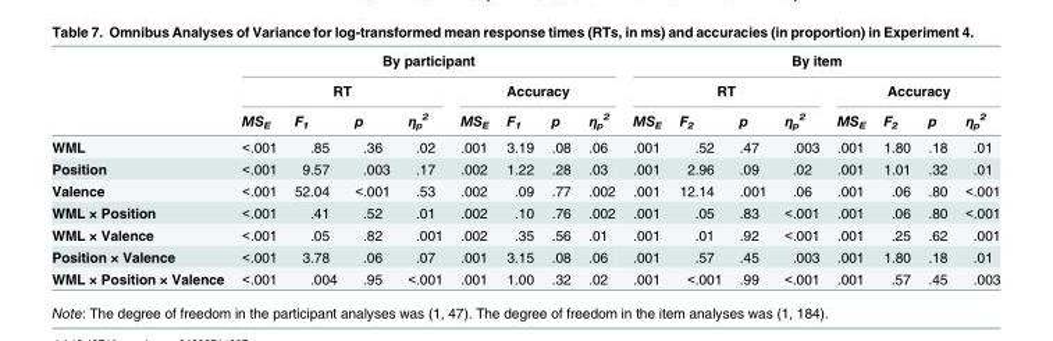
<table><thead><tr><td rowspan="3"></td><td colspan="8">By participant</td><td colspan="8">By item</td></tr><tr><td colspan="4">RT</td><td colspan="4">Accuracy</td><td colspan="4">RT</td><td colspan="4">Accuracy</td></tr><tr><td>MS<sub>E</sub></td><td>F<sub>1</sub></td><td>p</td><td>η<sub>p</sub> <sup>2</sup></td><td>MS<sub>E</sub></td><td>F<sub>1</sub></td><td>p</td><td>η<sub>p</sub> <sup>2</sup></td><td>MS<sub>E</sub></td><td>F<sub>2</sub></td><td>p</td><td>η<sub>p</sub> <sup>2</sup></td><td>MS<sub>E</sub></td><td>F<sub>2</sub></td><td>p</td><td>η<sub>p</sub> <sup>2</sup></td></tr></thead><tbody><tr><td>WML</td><td>&lt;.001</td><td>.85</td><td>.36</td><td>.02</td><td>.001</td><td>3.19</td><td>.08</td><td>.06</td><td>.001</td><td>.52</td><td>.47</td><td>.003</td><td>.001</td><td>1.80</td><td>.18</td><td>.01</td></tr><tr><td>Position</td><td>&lt;.001</td><td>9.57</td><td>.003</td><td>.17</td><td>.002</td><td>1.22</td><td>.28</td><td>.03</td><td>.001</td><td>2.96</td><td>.09</td><td>.02</td><td>.001</td><td>1.01</td><td>.32</td><td>.01</td></tr><tr><td>Valence</td><td>&lt;.001</td><td>52.04</td><td>&lt;.001</td><td>.53</td><td>.002</td><td>.09</td><td>.77</td><td>.002</td><td>.001</td><td>12.14</td><td>.001</td><td>.06</td><td>.001</td><td>.06</td><td>.80</td><td>&lt;.001</td></tr><tr><td>WML × Position</td><td>&lt;.001</td><td>.41</td><td>.52</td><td>.01</td><td>.002</td><td>.10</td><td>.76</td><td>.002</td><td>.001</td><td>.05</td><td>.83</td><td>&lt;.001</td><td>.001</td><td>.06</td><td>.80</td><td>&lt;.001</td></tr><tr><td>WML × Valence</td><td>&lt;.001</td><td>.05</td><td>.82</td><td>.001</td><td>.002</td><td>.35</td><td>.56</td><td>.01</td><td>.001</td><td>.01</td><td>.92</td><td>&lt;.001</td><td>.001</td><td>.25</td><td>.62</td><td>.001</td></tr><tr><td>Position × Valence</td><td>&lt;.001</td><td>3.78</td><td>.06</td><td>.07</td><td>.001</td><td>3.15</td><td>.08</td><td>.06</td><td>.001</td><td>.57</td><td>.45</td><td>.003</td><td>.001</td><td>1.80</td><td>.18</td><td>.01</td></tr><tr><td>WML × Position × Valence</td><td>&lt;.001</td><td>.004</td><td>.95</td><td>&lt;.001</td><td>.001</td><td>1.00</td><td>.32</td><td>.02</td><td>.001</td><td>&lt;.001</td><td>.99</td><td>&lt;.001</td><td>.001</td><td>.57</td><td>.45</td><td>.003</td></tr></tbody></table>